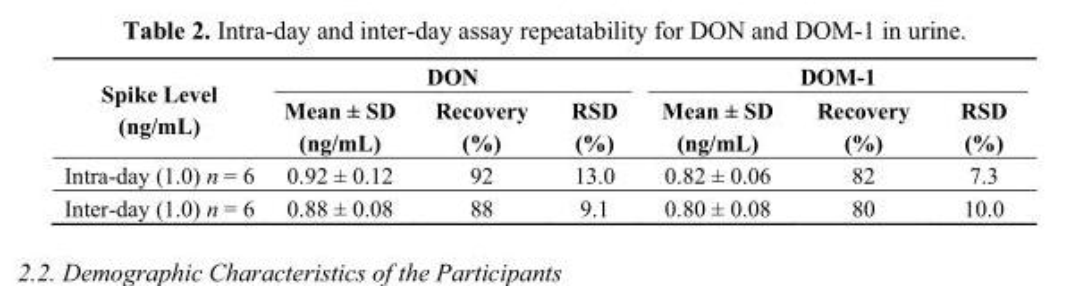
<table><thead><tr><td rowspan="2">Spike Level (ng/mL)</td><td colspan="3">DON</td><td colspan="3">DOM-1</td></tr><tr><td>Mean ± SD (ng/mL)</td><td>Recovery (%)</td><td>RSD (%)</td><td>Mean ± SD (ng/mL)</td><td>Recovery (%)</td><td>RSD (%)</td></tr></thead><tbody><tr><td>Intra-day (1.0) n = 6</td><td>0.92 ± 0.12</td><td>92</td><td>13.0</td><td>0.82 ± 0.06</td><td>82</td><td>7.3</td></tr><tr><td>Inter-day (1.0) n = 6</td><td>0.88 ± 0.08</td><td>88</td><td>9.1</td><td>0.80 ± 0.08</td><td>80</td><td>10.0</td></tr></tbody></table>